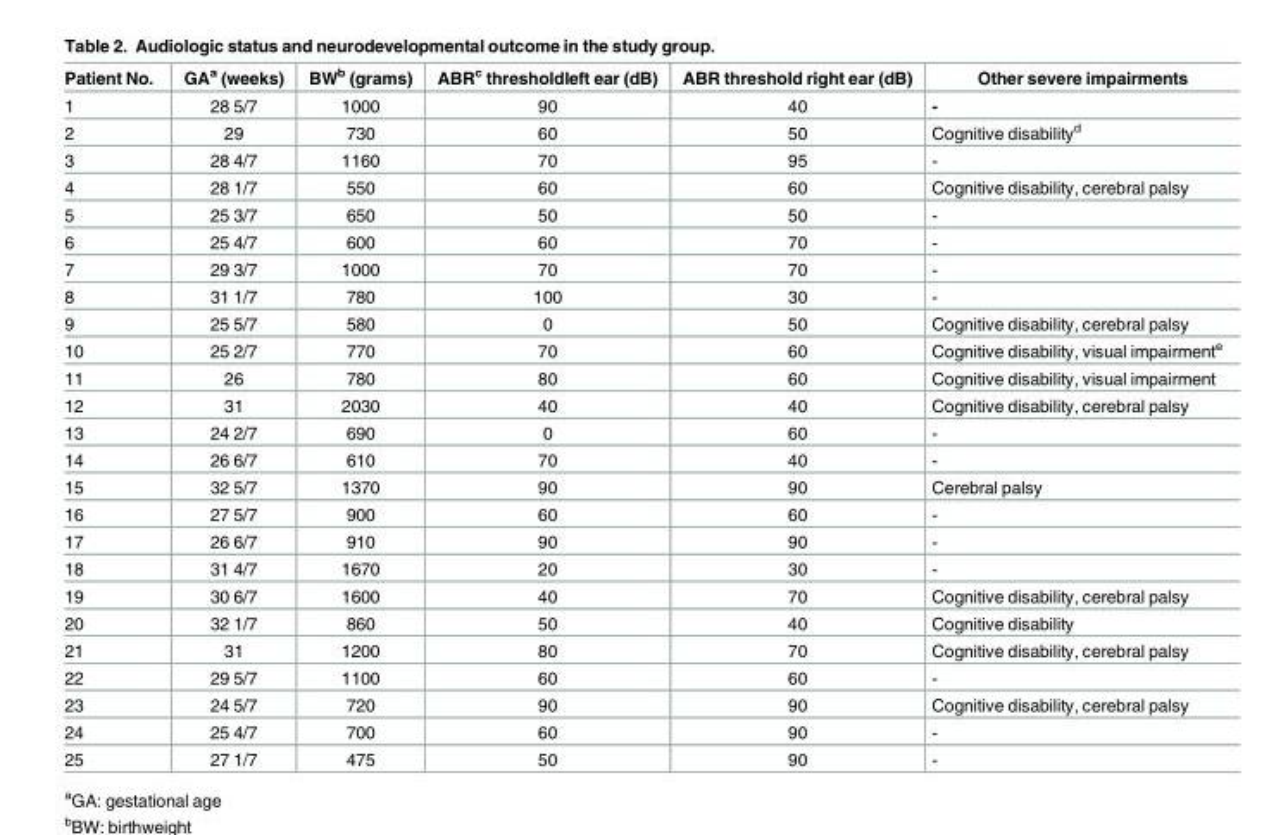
<table><thead><tr><td>Patient No.</td><td>GA<sup>a</sup> (weeks)</td><td>BW<sup>b</sup> (grams)</td><td>ABR<sup>c</sup> thresholdleft ear (dB)</td><td>ABR threshold right ear (dB)</td><td>Other severe impairments</td></tr></thead><tbody><tr><td>1</td><td>28 5/7</td><td>1000</td><td>90</td><td>40</td><td>-</td></tr><tr><td>2</td><td>29</td><td>730</td><td>60</td><td>50</td><td>Cognitive disability<sup>d</sup></td></tr><tr><td>3</td><td>28 4/7</td><td>1160</td><td>70</td><td>95</td><td>-</td></tr><tr><td>4</td><td>28 1/7</td><td>550</td><td>60</td><td>60</td><td>Cognitive disability, cerebral palsy</td></tr><tr><td>5</td><td>25 3/7</td><td>650</td><td>50</td><td>50</td><td>-</td></tr><tr><td>6</td><td>25 4/7</td><td>600</td><td>60</td><td>70</td><td>-</td></tr><tr><td>7</td><td>29 3/7</td><td>1000</td><td>70</td><td>70</td><td>-</td></tr><tr><td>8</td><td>31 1/7</td><td>780</td><td>100</td><td>30</td><td>-</td></tr><tr><td>9</td><td>25 5/7</td><td>580</td><td>0</td><td>50</td><td>Cognitive disability, cerebral palsy</td></tr><tr><td>10</td><td>25 2/7</td><td>770</td><td>70</td><td>60</td><td>Cognitive disability, visual impairment<sup>e</sup></td></tr><tr><td>11</td><td>26</td><td>780</td><td>80</td><td>60</td><td>Cognitive disability, visual impairment</td></tr><tr><td>12</td><td>31</td><td>2030</td><td>40</td><td>40</td><td>Cognitive disability, cerebral palsy</td></tr><tr><td>13</td><td>24 2/7</td><td>690</td><td>0</td><td>60</td><td>-</td></tr><tr><td>14</td><td>26 6/7</td><td>610</td><td>70</td><td>40</td><td>-</td></tr><tr><td>15</td><td>32 5/7</td><td>1370</td><td>90</td><td>90</td><td>Cerebral palsy</td></tr><tr><td>16</td><td>27 5/7</td><td>900</td><td>60</td><td>60</td><td>-</td></tr><tr><td>17</td><td>26 6/7</td><td>910</td><td>90</td><td>90</td><td>-</td></tr><tr><td>18</td><td>31 4/7</td><td>1670</td><td>20</td><td>30</td><td>-</td></tr><tr><td>19</td><td>30 6/7</td><td>1600</td><td>40</td><td>70</td><td>Cognitive disability, cerebral palsy</td></tr><tr><td>20</td><td>32 1/7</td><td>860</td><td>50</td><td>40</td><td>Cognitive disability</td></tr><tr><td>21</td><td>31</td><td>1200</td><td>80</td><td>70</td><td>Cognitive disability, cerebral palsy</td></tr><tr><td>22</td><td>29 5/7</td><td>1100</td><td>60</td><td>60</td><td>-</td></tr><tr><td>23</td><td>24 5/7</td><td>720</td><td>90</td><td>90</td><td>Cognitive disability, cerebral palsy</td></tr><tr><td>24</td><td>25 4/7</td><td>700</td><td>60</td><td>90</td><td>-</td></tr><tr><td>25</td><td>27 1/7</td><td>475</td><td>50</td><td>90</td><td>-</td></tr></tbody></table>